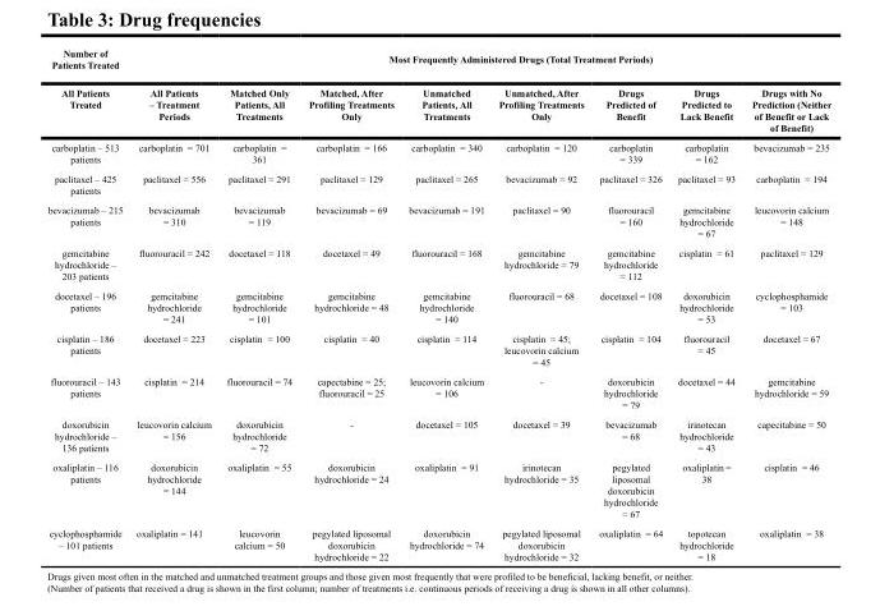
<table><thead><tr><td rowspan="2">Number of Patients Treated All Patients Treated</td><td colspan="8">Most Frequently Administered Drugs (Total Treatment Periods)</td></tr><tr><td>All Patients – Treatment Periods</td><td>Matched Only Patients, All Treatments</td><td>Matched, After Profiling Treatments Only</td><td>Unmatched Patients, All Treatments</td><td>Unmatched, After Profiling Treatments Only</td><td>Drugs Predicted of Benefit</td><td>Drugs Predicted to Lack Benefit</td><td>Drugs with No Prediction (Neither of Benefit or Lack of Benefit)</td></tr></thead><tbody><tr><td>carboplatin – 513 patients</td><td>carboplatin = 701</td><td>carboplatin = 361</td><td>carboplatin = 166</td><td>carboplatin = 340</td><td>carboplatin = 120</td><td>carboplatin = 339</td><td>carboplatin = 162</td><td>bevacizumab = 235</td></tr><tr><td>paclitaxel – 425 patients</td><td>paclitaxel = 556</td><td>paclitaxel = 291</td><td>paclitaxel = 129</td><td>paclitaxel = 265</td><td>bevacizumab = 92</td><td>paclitaxel = 326</td><td>paclitaxel = 93</td><td>carboplatin = 194</td></tr><tr><td>bevacizumab – 215 patients</td><td>bevacizumab = 310</td><td>bevacizumab = 119</td><td>bevacizumab = 69</td><td>bevacizumab = 191</td><td>paclitaxel = 90</td><td>fluorouracil = 160</td><td>gemcitabine hydrochloride = 67</td><td>leucovorin calcium = 148</td></tr><tr><td>gemcitabine hydrochloride – 203 patients</td><td>fluorouracil = 242</td><td>docetaxel = 118</td><td>docetaxel = 49</td><td>fluorouracil = 168</td><td>gemcitabine hydrochloride = 79</td><td>gemcitabine hydrochloride = 112</td><td>cisplatin = 61</td><td>paclitaxel = 129</td></tr><tr><td>docetaxel – 196 patients</td><td>gemcitabine hydrochloride = 241</td><td>gemcitabine hydrochloride = 101</td><td>gemcitabine hydrochloride = 48</td><td>gemcitabine hydrochloride = 140</td><td>fluorouracil = 68</td><td>docetaxel = 108</td><td>doxorubicin hydrochloride = 53</td><td>cyclophosphamide = 103</td></tr><tr><td>cisplatin – 186 patients</td><td>docetaxel = 223</td><td>cisplatin = 100</td><td>cisplatin = 40</td><td>cisplatin = 114</td><td>cisplatin = 45; leucovorin calcium = 45</td><td>cisplatin = 104</td><td>fluorouracil = 45</td><td>docetaxel = 67</td></tr><tr><td>fluorouracil – 143 patients</td><td>cisplatin = 214</td><td>fluorouracil = 74</td><td>capectabine = 25; fluorouracil = 25</td><td>leucovorin calcium = 106</td><td>-</td><td>doxorubicin hydrochloride = 79</td><td>docetaxel = 44</td><td>gemcitabine hydrochloride = 59</td></tr><tr><td>doxorubicin hydrochloride – 136 patients</td><td>leucovorin calcium = 156</td><td>doxorubicin hydrochloride = 72</td><td>-</td><td>docetaxel = 105</td><td>docetaxel = 39</td><td>bevacizumab = 68</td><td>irinotecan hydrochloride = 43</td><td>capecitabine = 50</td></tr><tr><td>oxaliplatin – 116 patients</td><td>doxorubicin hydrochloride = 144</td><td>oxaliplatin = 55</td><td>doxorubicin hydrochloride = 24</td><td>oxaliplatin = 91</td><td>irinotecan hydrochloride = 35</td><td>pegylated liposomal doxorubicin hydrochloride = 67</td><td>oxaliplatin = 38</td><td>cisplatin = 46</td></tr><tr><td>cyclophosphamide – 101 patients</td><td>oxaliplatin = 141</td><td>leucovorin calcium = 50</td><td>pegylated liposomal doxorubicin hydrochloride = 22</td><td>doxorubicin hydrochloride = 74</td><td>pegylated liposomal doxorubicin hydrochloride = 32</td><td>oxaliplatin = 64</td><td>topotecan hydrochloride = 18</td><td>oxaliplatin = 38</td></tr></tbody></table>